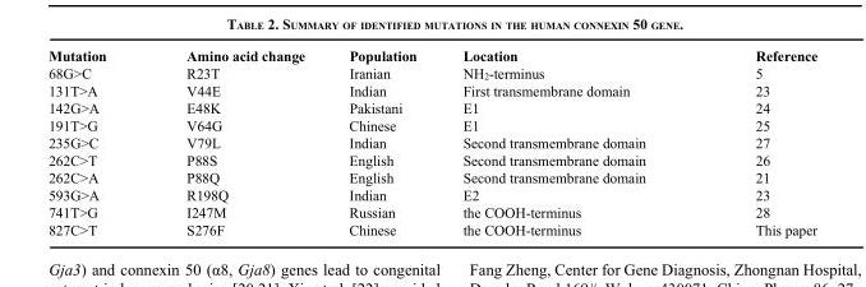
<table><thead><tr><td>Mutation</td><td>Amino acid change</td><td>Population</td><td>Location</td><td>Reference</td></tr></thead><tbody><tr><td>68G&gt;C</td><td>R23T</td><td>Iranian</td><td>NH<sub>2</sub>-terminus</td><td>5</td></tr><tr><td>131T&gt;A</td><td>V44E</td><td>Indian</td><td>First transmembrane domain</td><td>23</td></tr><tr><td>142G&gt;A</td><td>E48K</td><td>Pakistani</td><td>E1</td><td>24</td></tr><tr><td>191T&gt;G</td><td>V64G</td><td>Chinese</td><td>E1</td><td>25</td></tr><tr><td>235G&gt;C</td><td>V79L</td><td>Indian</td><td>Second transmembrane domain</td><td>27</td></tr><tr><td>262C&gt;T</td><td>P88S</td><td>English</td><td>Second transmembrane domain</td><td>26</td></tr><tr><td>262C&gt;A</td><td>P88Q</td><td>English</td><td>Second transmembrane domain</td><td>21</td></tr><tr><td>593G&gt;A</td><td>R198Q</td><td>Indian</td><td>E2</td><td>23</td></tr><tr><td>741T&gt;G</td><td>I247M</td><td>Russian</td><td>the COOH-terminus</td><td>28</td></tr><tr><td>827C&gt;T</td><td>S276F</td><td>Chinese</td><td>the COOH-terminus</td><td>This paper</td></tr></tbody></table>